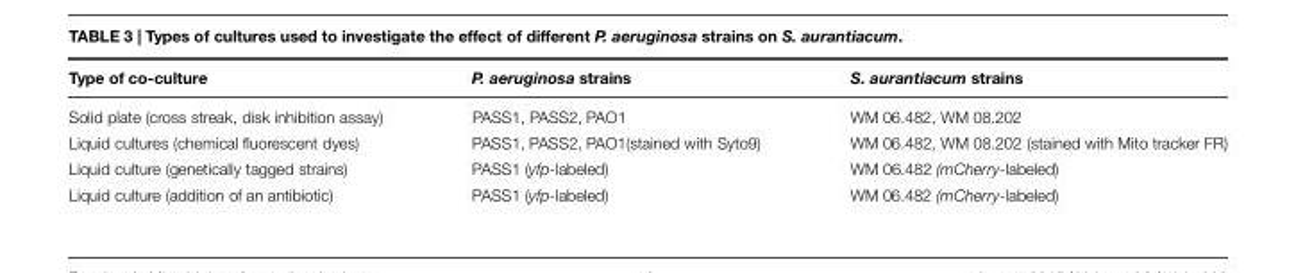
<table><thead><tr><td>Type of co-culture</td><td>P. aeruginosa strains</td><td>S. aurantiacum strains</td></tr></thead><tbody><tr><td>Solid plate (cross streak, disk inhibition assay)</td><td>PASS1, PASS2, PAO1</td><td>WM 06.482, WM 08.202</td></tr><tr><td>Liquid cultures (chemical fluorescent dyes)</td><td>PASS1, PASS2, PAO1(stained with Syto9)</td><td>WM 06.482, WM 08.202 (stained with Mito tracker FR)</td></tr><tr><td>Liquid culture (genetically tagged strains)</td><td>PASS1 (yfp-labeled)</td><td>WM 06.482 (mCherry-labeled)</td></tr><tr><td>Liquid culture (addition of an antibiotic)</td><td>PASS1 (yfp-labeled)</td><td>WM 06.482 (mCherry-labeled)</td></tr></tbody></table>